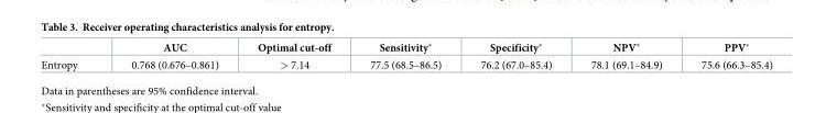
<table><thead><tr><td></td><td>AUC</td><td>Optimal cut-off</td><td>Sensitivity*</td><td>Specificity*</td><td>NPV*</td><td>PPV*</td></tr></thead><tbody><tr><td>Entropy</td><td>0.768 (0.676–0.861)</td><td>&gt; 7.14</td><td>77.5 (68.5–86.5)</td><td>76.2 (67.0–85.4)</td><td>78.1 (69.1–84.9)</td><td>75.6 (66.3–85.4)</td></tr></tbody></table>